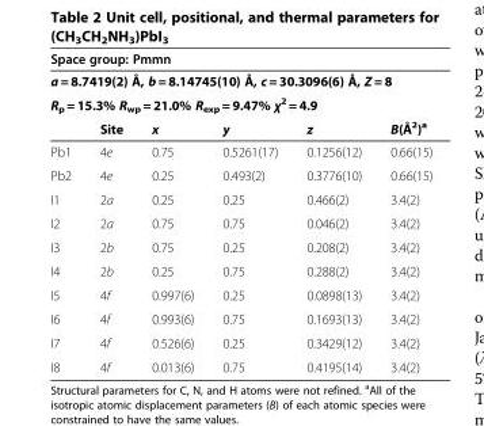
<table><thead><tr><td rowspan="3" colspan="6">Space group: Pmmn a = 8.7419(2) Å, b = 8.14745(10) Å, c = 30.3096(6) Å, Z = 8 Rp = 15.3% Rwp = 21.0% Rexp = 9.47% χ2 = 4.9</td></tr><tr></tr><tr></tr><tr><td></td><td>Site</td><td>x</td><td>y</td><td>z</td><td>B(Å<sup>2</sup>)<sup>a</sup></td></tr></thead><tbody><tr><td>Pb1</td><td>4e</td><td>0.75</td><td>0.5261(17)</td><td>0.1256(12)</td><td>0.66(15)</td></tr><tr><td>Pb2</td><td>4e</td><td>0.25</td><td>0.493(2)</td><td>0.3776(10)</td><td>0.66(15)</td></tr><tr><td>I1</td><td>2a</td><td>0.25</td><td>0.25</td><td>0.466(2)</td><td>3.4(2)</td></tr><tr><td>I2</td><td>2a</td><td>0.75</td><td>0.75</td><td>0.046(2)</td><td>3.4(2)</td></tr><tr><td>I3</td><td>2b</td><td>0.75</td><td>0.25</td><td>0.208(2)</td><td>3.4(2)</td></tr><tr><td>I4</td><td>2b</td><td>0.25</td><td>0.75</td><td>0.288(2)</td><td>3.4(2)</td></tr><tr><td>I5</td><td>4f</td><td>0.997(6)</td><td>0.25</td><td>0.0898(13)</td><td>3.4(2)</td></tr><tr><td>I6</td><td>4f</td><td>0.993(6)</td><td>0.75</td><td>0.1693(13)</td><td>3.4(2)</td></tr><tr><td>I7</td><td>4f</td><td>0.526(6)</td><td>0.25</td><td>0.3429(12)</td><td>3.4(2)</td></tr><tr><td>I8</td><td>4f</td><td>0.013(6)</td><td>0.75</td><td>0.4195(14)</td><td>3.4(2)</td></tr></tbody></table>